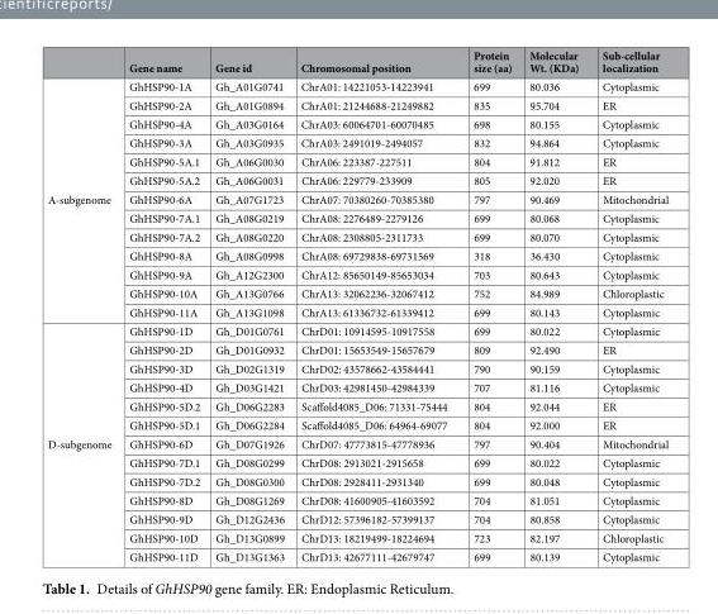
<table><thead><tr><td></td><td>Gene name</td><td>Gene id</td><td>Chromosomal position</td><td>Protein size (aa)</td><td>Molecular Wt. (KDa)</td><td>Sub-cellular localization</td></tr></thead><tbody><tr><td rowspan="13">A-subgenome</td><td>GhHSP90-1A</td><td>Gh_A01G0741</td><td>ChrA01: 14221053-14223941</td><td>699</td><td>80.036</td><td>Cytoplasmic</td></tr><tr><td>GhHSP90-2A</td><td>Gh_A01G0894</td><td>ChrA01: 21244688-21249882</td><td>835</td><td>95.704</td><td>ER</td></tr><tr><td>GhHSP90-4A</td><td>Gh_A03G0164</td><td>ChrA03: 60064701-60070485</td><td>698</td><td>80.155</td><td>Cytoplasmic</td></tr><tr><td>GhHSP90-3A</td><td>Gh_A03G0935</td><td>ChrA03: 2491019-2494057</td><td>832</td><td>94.864</td><td>Cytoplasmic</td></tr><tr><td>GhHSP90-5A.1</td><td>Gh_A06G0030</td><td>ChrA06: 223387-227511</td><td>804</td><td>91.812</td><td>ER</td></tr><tr><td>GhHSP90-5A.2</td><td>Gh_A06G0031</td><td>ChrA06: 229779-233909</td><td>805</td><td>92.020</td><td>ER</td></tr><tr><td>GhHSP90-6A</td><td>Gh_A07G1723</td><td>ChrA07: 70380260-70385380</td><td>797</td><td>90.469</td><td>Mitochondrial</td></tr><tr><td>GhHSP90-7A.1</td><td>Gh_A08G0219</td><td>ChrA08: 2276489-2279126</td><td>699</td><td>80.068</td><td>Cytoplasmic</td></tr><tr><td>GhHSP90-7A.2</td><td>Gh_A08G0220</td><td>ChrA08: 2308805-2311733</td><td>699</td><td>80.070</td><td>Cytoplasmic</td></tr><tr><td>GhHSP90-8A</td><td>Gh_A08G0998</td><td>ChrA08: 69729838-69731569</td><td>318</td><td>36.430</td><td>Cytoplasmic</td></tr><tr><td>GhHSP90-9A</td><td>Gh_A12G2300</td><td>ChrA12: 85650149-85653034</td><td>703</td><td>80.643</td><td>Cytoplasmic</td></tr><tr><td>GhHSP90-10A</td><td>Gh_A13G0766</td><td>ChrA13: 32062236-32067412</td><td>752</td><td>84.989</td><td>Chloroplastic</td></tr><tr><td>GhHSP90-11A</td><td>Gh_A13G1098</td><td>ChrA13: 61336732-61339412</td><td>699</td><td>80.143</td><td>Cytoplasmic</td></tr><tr><td rowspan="13">D-subgenome</td><td>GhHSP90-1D</td><td>Gh_D01G0761</td><td>ChrD01: 10914595-10917558</td><td>699</td><td>80.022</td><td>Cytoplasmic</td></tr><tr><td>GhHSP90-2D</td><td>Gh_D01G0932</td><td>ChrD01: 15653549-15657679</td><td>809</td><td>92.490</td><td>ER</td></tr><tr><td>GhHSP90-3D</td><td>Gh_D02G1319</td><td>ChrD02: 43578662-43584441</td><td>790</td><td>90.159</td><td>Cytoplasmic</td></tr><tr><td>GhHSP90-4D</td><td>Gh_D03G1421</td><td>ChrD03: 42981450-42984339</td><td>707</td><td>81.116</td><td>Cytoplasmic</td></tr><tr><td>GhHSP90-5D.2</td><td>Gh_D06G2283</td><td>Scaffold4085_D06: 71331-75444</td><td>804</td><td>92.044</td><td>ER</td></tr><tr><td>GhHSP90-5D.1</td><td>Gh_D06G2284</td><td>Scaffold4085_D06: 64964-69077</td><td>804</td><td>92.000</td><td>ER</td></tr><tr><td>GhHSP90-6D</td><td>Gh_D07G1926</td><td>ChrD07: 47773815-47778936</td><td>797</td><td>90.404</td><td>Mitochondrial</td></tr><tr><td>GhHSP90-7D.1</td><td>Gh_D08G0299</td><td>ChrD08: 2913021-2915658</td><td>699</td><td>80.022</td><td>Cytoplasmic</td></tr><tr><td>GhHSP90-7D.2</td><td>Gh_D08G0300</td><td>ChrD08: 2928411-2931340</td><td>699</td><td>80.048</td><td>Cytoplasmic</td></tr><tr><td>GhHSP90-8D</td><td>Gh_D08G1269</td><td>ChrD08: 41600905-41603592</td><td>704</td><td>81.051</td><td>Cytoplasmic</td></tr><tr><td>GhHSP90-9D</td><td>Gh_D12G2436</td><td>ChrD12: 57396182-57399137</td><td>704</td><td>80.858</td><td>Cytoplasmic</td></tr><tr><td>GhHSP90-10D</td><td>Gh_D13G0899</td><td>ChrD13: 18219499-18224694</td><td>723</td><td>82.197</td><td>Chloroplastic</td></tr><tr><td>GhHSP90-11D</td><td>Gh_D13G1363</td><td>ChrD13: 42677111-42679747</td><td>699</td><td>80.139</td><td>Cytoplasmic</td></tr></tbody></table>